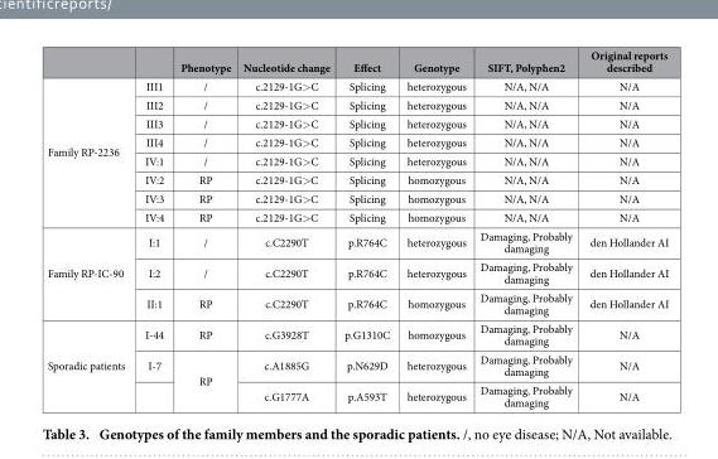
<table><thead><tr><td></td><td></td><td>Phenotype</td><td>Nucleotide change</td><td>Effect</td><td>Genotype</td><td>SIFT, Polyphen2</td><td>Original reports described</td></tr></thead><tbody><tr><td rowspan="8">Family RP-2236</td><td>III1</td><td>/</td><td>c.2129-1G&gt; C</td><td>Splicing</td><td>heterozygous</td><td>N/A, N/A</td><td>N/A</td></tr><tr><td>III2</td><td>/</td><td>c.2129-1G&gt; C</td><td>Splicing</td><td>heterozygous</td><td>N/A, N/A</td><td>N/A</td></tr><tr><td>III3</td><td>/</td><td>c.2129-1G&gt; C</td><td>Splicing</td><td>heterozygous</td><td>N/A, N/A</td><td>N/A</td></tr><tr><td>III4</td><td>/</td><td>c.2129-1G&gt; C</td><td>Splicing</td><td>heterozygous</td><td>N/A, N/A</td><td>N/A</td></tr><tr><td>IV:1</td><td>/</td><td>c.2129-1G&gt; C</td><td>Splicing</td><td>heterozygous</td><td>N/A, N/A</td><td>N/A</td></tr><tr><td>IV:2</td><td>RP</td><td>c.2129-1G&gt; C</td><td>Splicing</td><td>homozygous</td><td>N/A, N/A</td><td>N/A</td></tr><tr><td>IV:3</td><td>RP</td><td>c.2129-1G&gt; C</td><td>Splicing</td><td>homozygous</td><td>N/A, N/A</td><td>N/A</td></tr><tr><td>IV:4</td><td>RP</td><td>c.2129-1G&gt; C</td><td>Splicing</td><td>homozygous</td><td>N/A, N/A</td><td>N/A</td></tr><tr><td rowspan="3">Family RP-IC-90</td><td>I:1</td><td>/</td><td>c.C2290T</td><td>p.R764C</td><td>heterozygous</td><td>Damaging, Probably damaging</td><td>den Hollander AI</td></tr><tr><td>I:2</td><td>/</td><td>c.C2290T</td><td>p.R764C</td><td>heterozygous</td><td>Damaging, Probably damaging</td><td>den Hollander AI</td></tr><tr><td>II:1</td><td>RP</td><td>c.C2290T</td><td>p.R764C</td><td>homozygous</td><td>Damaging, Probably damaging</td><td>den Hollander AI</td></tr><tr><td rowspan="3">Sporadic patients</td><td>I-44</td><td>RP</td><td>c.G3928T</td><td>p.G1310C</td><td>homozygous</td><td>Damaging, Probably damaging</td><td>N/A</td></tr><tr><td>I-7</td><td rowspan="2">RP</td><td>c.A1885G</td><td>p.N629D</td><td>heterozygous</td><td>Damaging, Probably damaging</td><td>N/A</td></tr><tr><td></td><td>c.G1777A</td><td>p.A593T</td><td>heterozygous</td><td>Damaging, Probably damaging</td><td>N/A</td></tr></tbody></table>